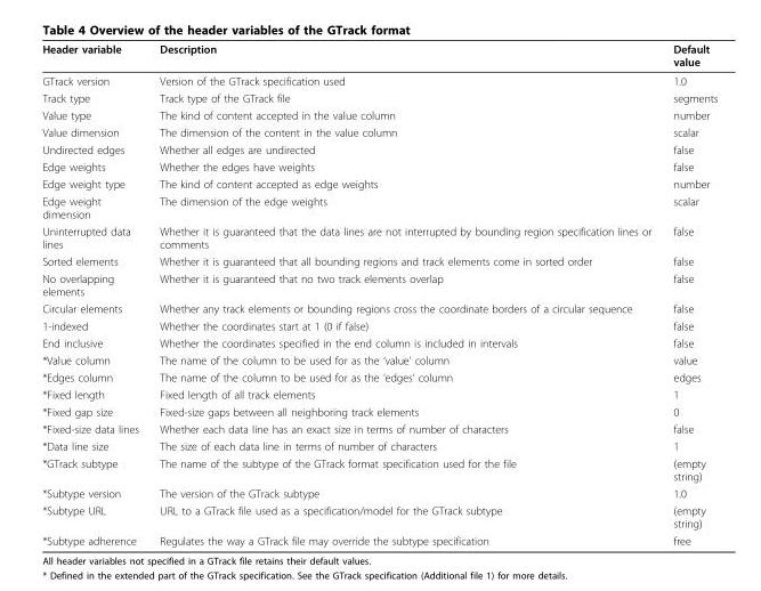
<table><thead><tr><td>Header variable</td><td>Description</td><td>Default value</td></tr></thead><tbody><tr><td>GTrack version</td><td>Version of the GTrack specification used</td><td>1.0</td></tr><tr><td>Track type</td><td>Track type of the GTrack file</td><td>segments</td></tr><tr><td>Value type</td><td>The kind of content accepted in the value column</td><td>number</td></tr><tr><td>Value dimension</td><td>The dimension of the content in the value column</td><td>scalar</td></tr><tr><td>Undirected edges</td><td>Whether all edges are undirected</td><td>false</td></tr><tr><td>Edge weights</td><td>Whether the edges have weights</td><td>false</td></tr><tr><td>Edge weight type</td><td>The kind of content accepted as edge weights</td><td>number</td></tr><tr><td>Edge weight dimension</td><td>The dimension of the edge weights</td><td>scalar</td></tr><tr><td>Uninterrupted data lines</td><td>Whether it is guaranteed that the data lines are not interrupted by bounding region specification lines or comments</td><td>false</td></tr><tr><td>Sorted elements</td><td>Whether it is guaranteed that all bounding regions and track elements come in sorted order</td><td>false</td></tr><tr><td>No overlapping elements</td><td>Whether it is guaranteed that no two track elements overlap</td><td>false</td></tr><tr><td>Circular elements</td><td>Whether any track elements or bounding regions cross the coordinate borders of a circular sequence</td><td>false</td></tr><tr><td>1-indexed</td><td>Whether the coordinates start at 1 (0 if false)</td><td>false</td></tr><tr><td>End inclusive</td><td>Whether the coordinates specified in the end column is included in intervals</td><td>false</td></tr><tr><td>*Value column</td><td>The name of the column to be used for as the ‘value’ column</td><td>value</td></tr><tr><td>*Edges column</td><td>The name of the column to be used for as the ‘edges’ column</td><td>edges</td></tr><tr><td>*Fixed length</td><td>Fixed length of all track elements</td><td>1</td></tr><tr><td>*Fixed gap size</td><td>Fixed-size gaps between all neighboring track elements</td><td>0</td></tr><tr><td>*Fixed-size data lines</td><td>Whether each data line has an exact size in terms of number of characters</td><td>false</td></tr><tr><td>*Data line size</td><td>The size of each data line in terms of number of characters</td><td>1</td></tr><tr><td>*GTrack subtype</td><td>The name of the subtype of the GTrack format specification used for the file</td><td>(empty string)</td></tr><tr><td>*Subtype version</td><td>The version of the GTrack subtype</td><td>1.0</td></tr><tr><td>*Subtype URL</td><td>URL to a GTrack file used as a specification/model for the GTrack subtype</td><td>(empty string)</td></tr><tr><td>*Subtype adherence</td><td>Regulates the way a GTrack file may override the subtype specification</td><td>free</td></tr></tbody></table>